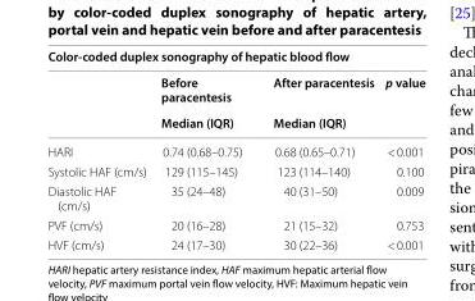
<table><thead><tr><td colspan="4">Color‑coded duplex sonography of hepatic blood flow</td></tr><tr><td rowspan="2"></td><td rowspan="2">Before paracentesis Median (IQR)</td><td rowspan="2">After paracentesis Median (IQR)</td><td rowspan="2">p value</td></tr><tr></tr></thead><tbody><tr><td>HARI</td><td>0.74 (0.68–0.75)</td><td>0.68 (0.65–0.71)</td><td>&lt; 0.001</td></tr><tr><td>Systolic HAF (cm/s)</td><td>129 (115–145)</td><td>123 (114–140)</td><td>0.100</td></tr><tr><td>Diastolic HAF (cm/s)</td><td>35 (24–48)</td><td>40 (31–50)</td><td>0.009</td></tr><tr><td>PVF (cm/s)</td><td>20 (16–28)</td><td>21 (15–32)</td><td>0.753</td></tr><tr><td>HVF (cm/s)</td><td>24 (17–30)</td><td>30 (22–36)</td><td>&lt; 0.001</td></tr></tbody></table>